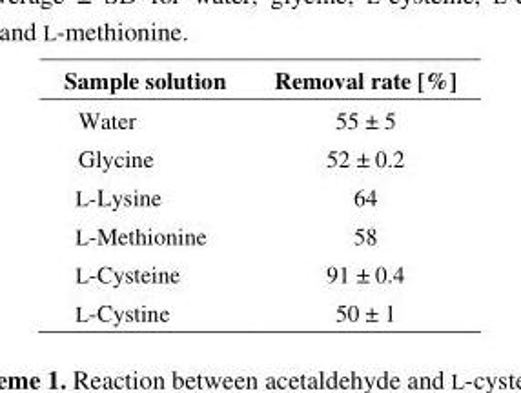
<table><thead><tr><td>Sample solution</td><td>Removal rate [%]</td></tr></thead><tbody><tr><td>Water</td><td>55 ± 5</td></tr><tr><td>Glycine</td><td>52 ± 0.2</td></tr><tr><td>L-Lysine</td><td>64</td></tr><tr><td>L-Methionine</td><td>58</td></tr><tr><td>L-Cysteine</td><td>91 ± 0.4</td></tr><tr><td>L-Cystine</td><td>50 ± 1</td></tr></tbody></table>